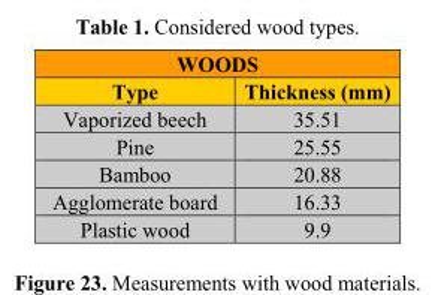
<table><thead><tr><td colspan="2">WOODS</td></tr><tr><td>Type</td><td>Thickness (mm)</td></tr></thead><tbody><tr><td>Vaporized beech</td><td>35.51</td></tr><tr><td>Pine</td><td>25.55</td></tr><tr><td>Bamboo</td><td>20.88</td></tr><tr><td>Agglomerate board</td><td>16.33</td></tr><tr><td>Plastic wood</td><td>9.9</td></tr></tbody></table>